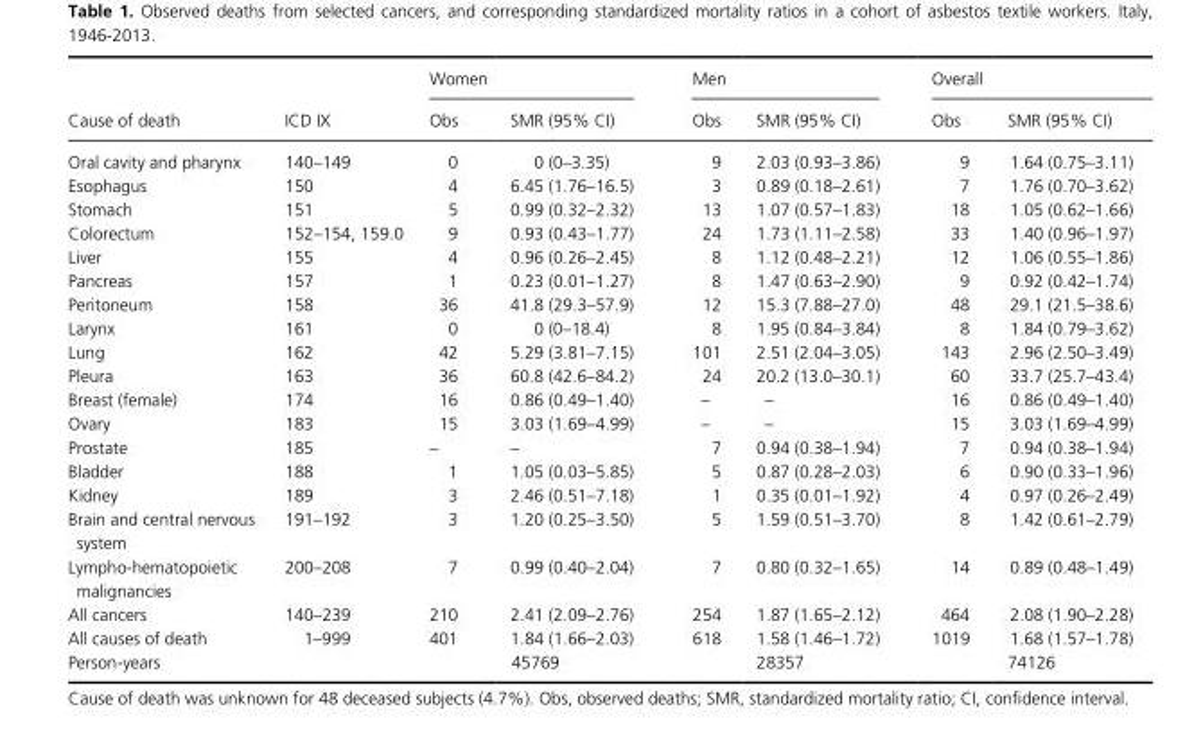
<table><thead><tr><td rowspan="2">Cause of death</td><td rowspan="2">ICD IX</td><td colspan="2">Women</td><td colspan="2">Men</td><td colspan="2">Overall</td></tr><tr><td>Obs</td><td>SMR (95% CI)</td><td>Obs</td><td>SMR (95% CI)</td><td>Obs</td><td>SMR (95% CI)</td></tr></thead><tbody><tr><td>Oral cavity and pharynx</td><td>140–149</td><td>0</td><td>0 (0–3.35)</td><td>9</td><td>2.03 (0.93–3.86)</td><td>9</td><td>1.64 (0.75–3.11)</td></tr><tr><td>Esophagus</td><td>150</td><td>4</td><td>6.45 (1.76–16.5)</td><td>3</td><td>0.89 (0.18–2.61)</td><td>7</td><td>1.76 (0.70–3.62)</td></tr><tr><td>Stomach</td><td>151</td><td>5</td><td>0.99 (0.32–2.32)</td><td>13</td><td>1.07 (0.57–1.83)</td><td>18</td><td>1.05 (0.62–1.66)</td></tr><tr><td>Colorectum</td><td>152–154, 159.0</td><td>9</td><td>0.93 (0.43–1.77)</td><td>24</td><td>1.73 (1.11–2.58)</td><td>33</td><td>1.40 (0.96–1.97)</td></tr><tr><td>Liver</td><td>155</td><td>4</td><td>0.96 (0.26–2.45)</td><td>8</td><td>1.12 (0.48–2.21)</td><td>12</td><td>1.06 (0.55–1.86)</td></tr><tr><td>Pancreas</td><td>157</td><td>1</td><td>0.23 (0.01–1.27)</td><td>8</td><td>1.47 (0.63–2.90)</td><td>9</td><td>0.92 (0.42–1.74)</td></tr><tr><td>Peritoneum</td><td>158</td><td>36</td><td>41.8 (29.3–57.9)</td><td>12</td><td>15.3 (7.88–27.0)</td><td>48</td><td>29.1 (21.5–38.6)</td></tr><tr><td>Larynx</td><td>161</td><td>0</td><td>0 (0–18.4)</td><td>8</td><td>1.95 (0.84–3.84)</td><td>8</td><td>1.84 (0.79–3.62)</td></tr><tr><td>Lung</td><td>162</td><td>42</td><td>5.29 (3.81–7.15)</td><td>101</td><td>2.51 (2.04–3.05)</td><td>143</td><td>2.96 (2.50–3.49)</td></tr><tr><td>Pleura</td><td>163</td><td>36</td><td>60.8 (42.6–84.2)</td><td>24</td><td>20.2 (13.0–30.1)</td><td>60</td><td>33.7 (25.7–43.4)</td></tr><tr><td>Breast (female)</td><td>174</td><td>16</td><td>0.86 (0.49–1.40)</td><td>–</td><td>–</td><td>16</td><td>0.86 (0.49–1.40)</td></tr><tr><td>Ovary</td><td>183</td><td>15</td><td>3.03 (1.69–4.99)</td><td>–</td><td>–</td><td>15</td><td>3.03 (1.69–4.99)</td></tr><tr><td>Prostate</td><td>185</td><td>–</td><td>–</td><td>7</td><td>0.94 (0.38–1.94)</td><td>7</td><td>0.94 (0.38–1.94)</td></tr><tr><td>Bladder</td><td>188</td><td>1</td><td>1.05 (0.03–5.85)</td><td>5</td><td>0.87 (0.28–2.03)</td><td>6</td><td>0.90 (0.33–1.96)</td></tr><tr><td>Kidney</td><td>189</td><td>3</td><td>2.46 (0.51–7.18)</td><td>1</td><td>0.35 (0.01–1.92)</td><td>4</td><td>0.97 (0.26–2.49)</td></tr><tr><td>Brain and central nervous system</td><td>191–192</td><td>3</td><td>1.20 (0.25–3.50)</td><td>5</td><td>1.59 (0.51–3.70)</td><td>8</td><td>1.42 (0.61–2.79)</td></tr><tr><td>Lympho- hematopoietic malignancies</td><td>200–208</td><td>7</td><td>0.99 (0.40–2.04)</td><td>7</td><td>0.80 (0.32–1.65)</td><td>14</td><td>0.89 (0.48–1.49)</td></tr><tr><td>All cancers</td><td>140–239</td><td>210</td><td>2.41 (2.09–2.76)</td><td>254</td><td>1.87 (1.65–2.12)</td><td>464</td><td>2.08 (1.90–2.28)</td></tr><tr><td>All causes of death</td><td>1–999</td><td>401</td><td>1.84 (1.66–2.03)</td><td>618</td><td>1.58 (1.46–1.72)</td><td>1019</td><td>1.68 (1.57–1.78)</td></tr><tr><td>Person- years</td><td></td><td></td><td>45769</td><td></td><td>28357</td><td></td><td>74126</td></tr></tbody></table>